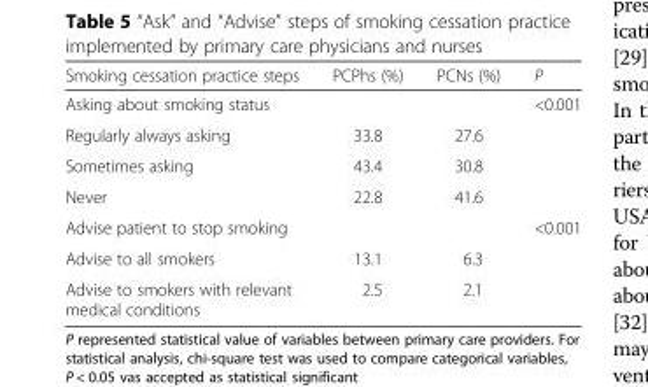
<table><thead><tr><td>Smoking cessation practice steps</td><td>PCPhs (%)</td><td>PCNs (%)</td><td>P</td></tr></thead><tbody><tr><td colspan="3">Asking about smoking status</td><td rowspan="4">&lt;0.001</td></tr><tr><td>Regularly always asking</td><td>33.8</td><td>27.6</td></tr><tr><td>Sometimes asking</td><td>43.4</td><td>30.8</td></tr><tr><td>Never</td><td>22.8</td><td>41.6</td></tr><tr><td colspan="3">Advise patient to stop smoking</td><td rowspan="3">&lt;0.001</td></tr><tr><td>Advise to all smokers</td><td>13.1</td><td>6.3</td></tr><tr><td>Advise to smokers with relevant medical conditions</td><td>2.5</td><td>2.1</td></tr></tbody></table>